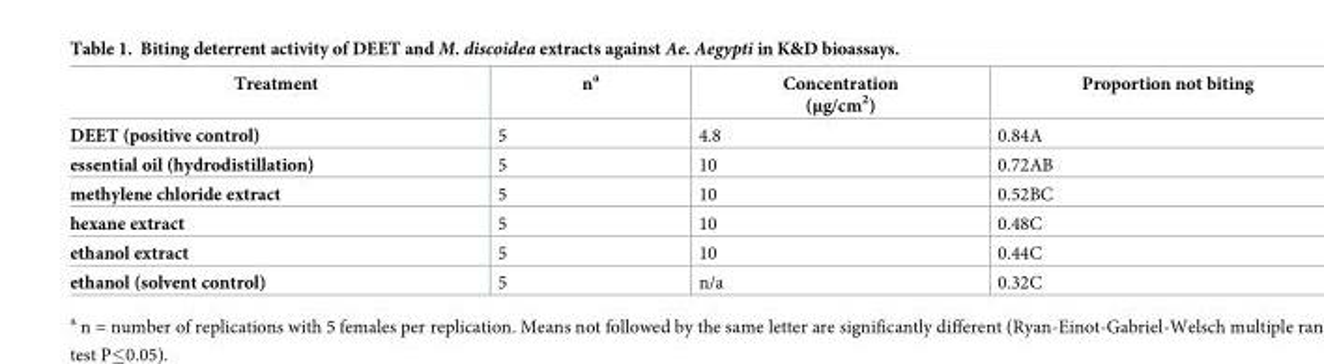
<table><thead><tr><td>Treatment</td><td>n<sup>a</sup></td><td>Concentration (μg/cm<sup>2</sup>)</td><td>Proportion not biting</td></tr></thead><tbody><tr><td>DEET (positive control)</td><td>5</td><td>4.8</td><td>0.84A</td></tr><tr><td>essential oil (hydrodistillation)</td><td>5</td><td>10</td><td>0.72AB</td></tr><tr><td>methylene chloride extract</td><td>5</td><td>10</td><td>0.52BC</td></tr><tr><td>hexane extract</td><td>5</td><td>10</td><td>0.48C</td></tr><tr><td>ethanol extract</td><td>5</td><td>10</td><td>0.44C</td></tr><tr><td>ethanol (solvent control)</td><td>5</td><td>n/a</td><td>0.32C</td></tr></tbody></table>